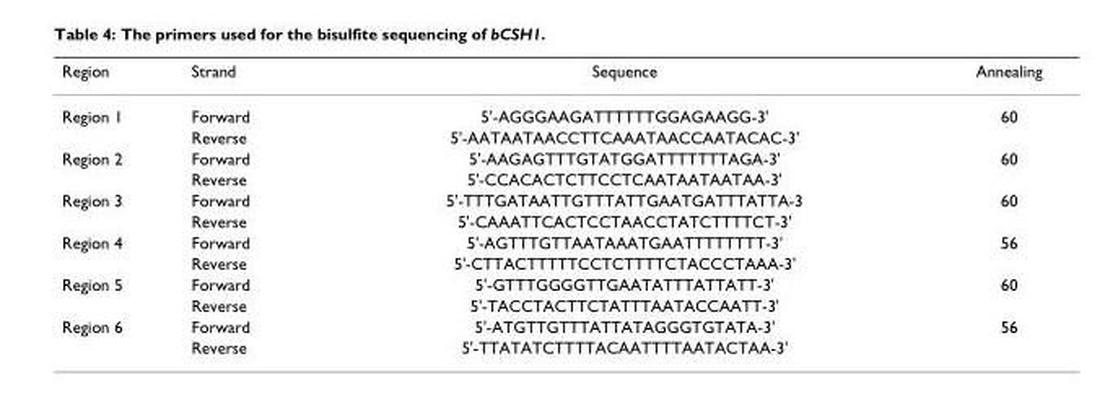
<table><thead><tr><td>Region</td><td>Strand</td><td>Sequence</td><td>Annealing</td></tr></thead><tbody><tr><td rowspan="2">Region 1</td><td>Forward</td><td>5&#x27;-AGGGAAGATTTTTTGGAGAAGG-3&#x27;</td><td>60</td></tr><tr><td>Reverse</td><td>5&#x27;-AATAATAACCTTCAAATAACCAATACAC-3&#x27;</td><td></td></tr><tr><td rowspan="2">Region 2</td><td>Forward</td><td>5&#x27;-AAGAGTTTGTATGGATTTTTTTAGA-3&#x27;</td><td>60</td></tr><tr><td>Reverse</td><td>5&#x27;-CCACACTCTTCCTCAATAATAATAA-3&#x27;</td><td></td></tr><tr><td rowspan="2">Region 3</td><td>Forward</td><td>5&#x27;-TTTGATAATTGTTTATTGAATGATTTATTA-3</td><td>60</td></tr><tr><td>Reverse</td><td>5&#x27;-CAAATTCACTCCTAACCTATCTTTTCT-3&#x27;</td><td></td></tr><tr><td rowspan="2">Region 4</td><td>Forward</td><td>5&#x27;-AGTTTGTTAATAAATGAATTTTTTTT-3&#x27;</td><td>56</td></tr><tr><td>Reverse</td><td>5&#x27;-CTTACTTTTTCCTCTTTTCTACCCTAAA-3&#x27;</td><td></td></tr><tr><td rowspan="2">Region 5</td><td>Forward</td><td>5&#x27;-GTTTGGGGTTGAATATTTATTATT-3&#x27;</td><td>60</td></tr><tr><td>Reverse</td><td>5&#x27;-TACCTACTTCTATTTAATACCAATT-3&#x27;</td><td></td></tr><tr><td rowspan="2">Region 6</td><td>Forward</td><td>5&#x27;-ATGTTGTTTATTATAGGGTGTATA-3&#x27;</td><td>56</td></tr><tr><td>Reverse</td><td>5&#x27;-TTATATCTTTTACAATTTTAATACTAA-3&#x27;</td><td></td></tr></tbody></table>